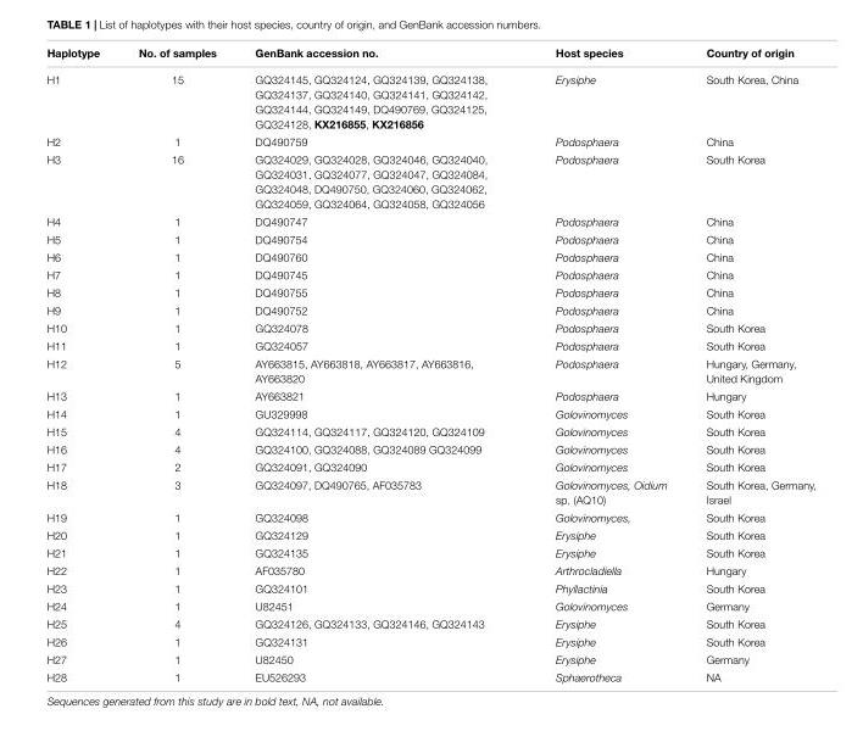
<table><thead><tr><td>Haplotype</td><td>No. of samples</td><td>GenBank accession no.</td><td>Host species</td><td>Country of origin</td></tr></thead><tbody><tr><td>H1</td><td>15</td><td>GQ324145, GQ324124, GQ324139, GQ324138, GQ324137, GQ324140, GQ324141, GQ324142, GQ324144, GQ324149, DQ490769, GQ324125, GQ324128, KX216855, KX216856</td><td>Erysiphe</td><td>South Korea, China</td></tr><tr><td>H2</td><td>1</td><td>DQ490759</td><td>Podosphaera</td><td>China</td></tr><tr><td>H3</td><td>16</td><td>GQ324029, GQ324028, GQ324046, GQ324040, GQ324031, GQ324077, GQ324047, GQ324084, GQ324048, DQ490750, GQ324060, GQ324062, GQ324059, GQ324064, GQ324058, GQ324056</td><td>Podosphaera</td><td>South Korea</td></tr><tr><td>H4</td><td>1</td><td>DQ490747</td><td>Podosphaera</td><td>China</td></tr><tr><td>H5</td><td>1</td><td>DQ490754</td><td>Podosphaera</td><td>China</td></tr><tr><td>H6</td><td>1</td><td>DQ490760</td><td>Podosphaera</td><td>China</td></tr><tr><td>H7</td><td>1</td><td>DQ490745</td><td>Podosphaera</td><td>China</td></tr><tr><td>H8</td><td>1</td><td>DQ490755</td><td>Podosphaera</td><td>China</td></tr><tr><td>H9</td><td>1</td><td>DQ490752</td><td>Podosphaera</td><td>China</td></tr><tr><td>H10</td><td>1</td><td>GQ324078</td><td>Podosphaera</td><td>South Korea</td></tr><tr><td>H11</td><td>1</td><td>GQ324057</td><td>Podosphaera</td><td>South Korea</td></tr><tr><td>H12</td><td>5</td><td>AY663815, AY663818, AY663817, AY663816, AY663820</td><td>Podosphaera</td><td>Hungary, Germany, United Kingdom</td></tr><tr><td>H13</td><td>1</td><td>AY663821</td><td>Podosphaera</td><td>Hungary</td></tr><tr><td>H14</td><td>1</td><td>GU329998</td><td>Golovinomyces</td><td>South Korea</td></tr><tr><td>H15</td><td>4</td><td>GQ324114, GQ324117, GQ324120, GQ324109</td><td>Golovinomyces</td><td>South Korea</td></tr><tr><td>H16</td><td>4</td><td>GQ324100, GQ324088, GQ324089 GQ324099</td><td>Golovinomyces</td><td>South Korea</td></tr><tr><td>H17</td><td>2</td><td>GQ324091, GQ324090</td><td>Golovinomyces</td><td>South Korea</td></tr><tr><td>H18</td><td>3</td><td>GQ324097, DQ490765, AF035783</td><td>Golovinomyces, Oidium sp. (AQ10)</td><td>South Korea, Germany, Israel</td></tr><tr><td>H19</td><td>1</td><td>GQ324098</td><td>Golovinomyces,</td><td>South Korea</td></tr><tr><td>H20</td><td>1</td><td>GQ324129</td><td>Erysiphe</td><td>South Korea</td></tr><tr><td>H21</td><td>1</td><td>GQ324135</td><td>Erysiphe</td><td>South Korea</td></tr><tr><td>H22</td><td>1</td><td>AF035780</td><td>Arthrocladiella</td><td>Hungary</td></tr><tr><td>H23</td><td>1</td><td>GQ324101</td><td>Phyllactinia</td><td>South Korea</td></tr><tr><td>H24</td><td>1</td><td>U82451</td><td>Golovinomyces</td><td>Germany</td></tr><tr><td>H25</td><td>4</td><td>GQ324126, GQ324133, GQ324146, GQ324143</td><td>Erysiphe</td><td>South Korea</td></tr><tr><td>H26</td><td>1</td><td>GQ324131</td><td>Erysiphe</td><td>South Korea</td></tr><tr><td>H27</td><td>1</td><td>U82450</td><td>Erysiphe</td><td>Germany</td></tr><tr><td>H28</td><td>1</td><td>EU526293</td><td>Sphaerotheca</td><td>NA</td></tr></tbody></table>